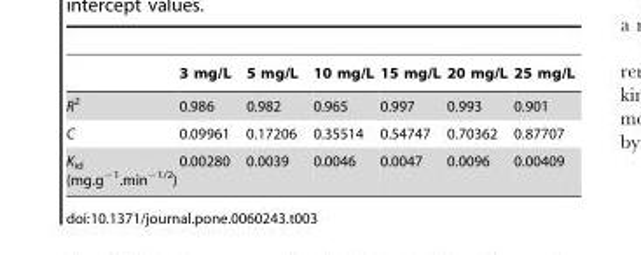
<table><thead><tr><td></td><td>3 mg/L</td><td>5 mg/L</td><td>10 mg/L</td><td>15 mg/L</td><td>20 mg/L</td><td>25 mg/L</td></tr></thead><tbody><tr><td>R<sup>2</sup></td><td>0.986</td><td>0.982</td><td>0.965</td><td>0.997</td><td>0.993</td><td>0.901</td></tr><tr><td>C</td><td>0.09961</td><td>0.17206</td><td>0.35514</td><td>0.54747</td><td>0.70362</td><td>0.87707</td></tr><tr><td>K<sub>id</sub> (mg.g<sup>−1</sup>.min<sup>−1/2</sup>)</td><td>0.00280</td><td>0.0039</td><td>0.0046</td><td>0.0047</td><td>0.0096</td><td>0.00409</td></tr></tbody></table>